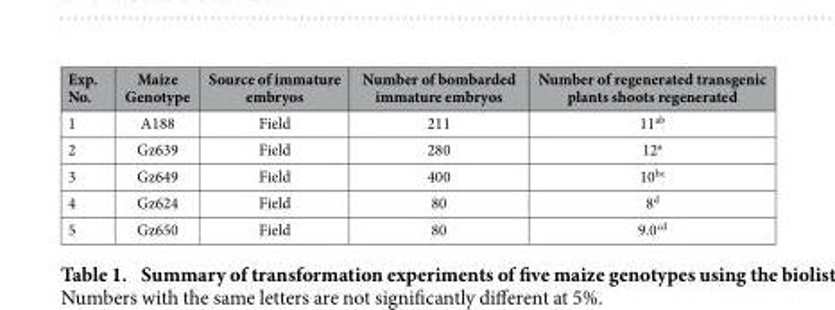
<table><thead><tr><td>Exp. No.</td><td>Maize Genotype</td><td>Source of immature embryos</td><td>Number of bombarded immature embryos</td><td>Number of regenerated transgenic plants shoots regenerated</td></tr></thead><tbody><tr><td>1</td><td>A188</td><td>Field</td><td>211</td><td>11<sup>ab</sup></td></tr><tr><td>2</td><td>Gz639</td><td>Field</td><td>280</td><td>12<sup>a</sup></td></tr><tr><td>3</td><td>Gz649</td><td>Field</td><td>400</td><td>10<sup>bc</sup></td></tr><tr><td>4</td><td>Gz624</td><td>Field</td><td>80</td><td>8<sup>d</sup></td></tr><tr><td>5</td><td>Gz650</td><td>Field</td><td>80</td><td>9.0<sup>cd</sup></td></tr></tbody></table>